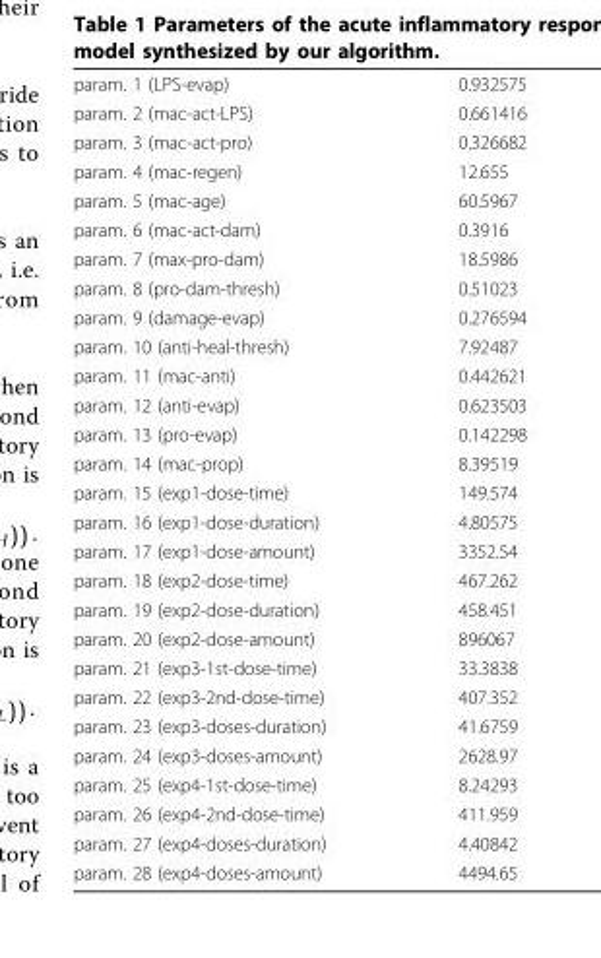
<table><tbody><tr><td>param. 1 (LPS-evap)</td><td>0.932575</td></tr><tr><td>param. 2 (mac-act-LPS)</td><td>0.661416</td></tr><tr><td>param. 3 (mac-act-pro)</td><td>0.326682</td></tr><tr><td>param. 4 (mac-regen)</td><td>12.655</td></tr><tr><td>param. 5 (mac-age)</td><td>60.5967</td></tr><tr><td>param. 6 (mac-act-dam)</td><td>0.3916</td></tr><tr><td>param. 7 (max-pro-dam)</td><td>18.5986</td></tr><tr><td>param. 8 (pro-dam-thresh)</td><td>0.51023</td></tr><tr><td>param. 9 (damage-evap)</td><td>0.276594</td></tr><tr><td>param. 10 (anti-heal-thresh)</td><td>7.92487</td></tr><tr><td>param. 11 (mac-anti)</td><td>0.442621</td></tr><tr><td>param. 12 (anti-evap)</td><td>0.623503</td></tr><tr><td>param. 13 (pro-evap)</td><td>0.142298</td></tr><tr><td>param. 14 (mac-prop)</td><td>8.39519</td></tr><tr><td>param. 15 (exp1-dose-time)</td><td>149.574</td></tr><tr><td>param. 16 (exp1-dose-duration)</td><td>4.80575</td></tr><tr><td>param. 17 (exp1-dose-amount)</td><td>3352.54</td></tr><tr><td>param. 18 (exp2-dose-time)</td><td>467.262</td></tr><tr><td>param. 19 (exp2-dose-duration)</td><td>458.451</td></tr><tr><td>param. 20 (exp2-dose-amount)</td><td>896067</td></tr><tr><td>param. 21 (exp3-1st-dose-time)</td><td>33.3838</td></tr><tr><td>param. 22 (exp3-2nd-dose-time)</td><td>407.352</td></tr><tr><td>param. 23 (exp3-doses-duration)</td><td>41.6759</td></tr><tr><td>param. 24 (exp3-doses-amount)</td><td>2628.97</td></tr><tr><td>param. 25 (exp4-1st-dose-time)</td><td>8.24293</td></tr><tr><td>param. 26 (exp4-2nd-dose-time)</td><td>411.959</td></tr><tr><td>param. 27 (exp4-doses-duration)</td><td>4.40842</td></tr><tr><td>param. 28 (exp4-doses-amount)</td><td>4494.65</td></tr></tbody></table>